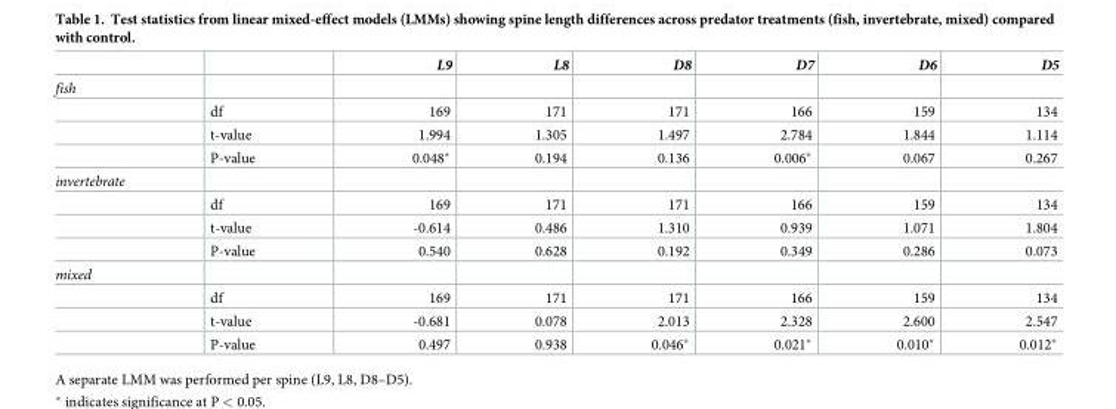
<table><thead><tr><td></td><td></td><td>L9</td><td>L8</td><td>D8</td><td>D7</td><td>D6</td><td>D5</td></tr></thead><tbody><tr><td colspan="8">fish</td></tr><tr><td></td><td>df</td><td>169</td><td>171</td><td>171</td><td>166</td><td>159</td><td>134</td></tr><tr><td></td><td>t-value</td><td>1.994</td><td>1.305</td><td>1.497</td><td>2.784</td><td>1.844</td><td>1.114</td></tr><tr><td></td><td>P-value</td><td>0.048*</td><td>0.194</td><td>0.136</td><td>0.006*</td><td>0.067</td><td>0.267</td></tr><tr><td colspan="8">invertebrate</td></tr><tr><td></td><td>df</td><td>169</td><td>171</td><td>171</td><td>166</td><td>159</td><td>134</td></tr><tr><td></td><td>t-value</td><td>-0.614</td><td>0.486</td><td>1.310</td><td>0.939</td><td>1.071</td><td>1.804</td></tr><tr><td></td><td>P-value</td><td>0.540</td><td>0.628</td><td>0.192</td><td>0.349</td><td>0.286</td><td>0.073</td></tr><tr><td colspan="8">mixed</td></tr><tr><td></td><td>df</td><td>169</td><td>171</td><td>171</td><td>166</td><td>159</td><td>134</td></tr><tr><td></td><td>t-value</td><td>-0.681</td><td>0.078</td><td>2.013</td><td>2.328</td><td>2.600</td><td>2.547</td></tr><tr><td></td><td>P-value</td><td>0.497</td><td>0.938</td><td>0.046*</td><td>0.021*</td><td>0.010*</td><td>0.012*</td></tr></tbody></table>